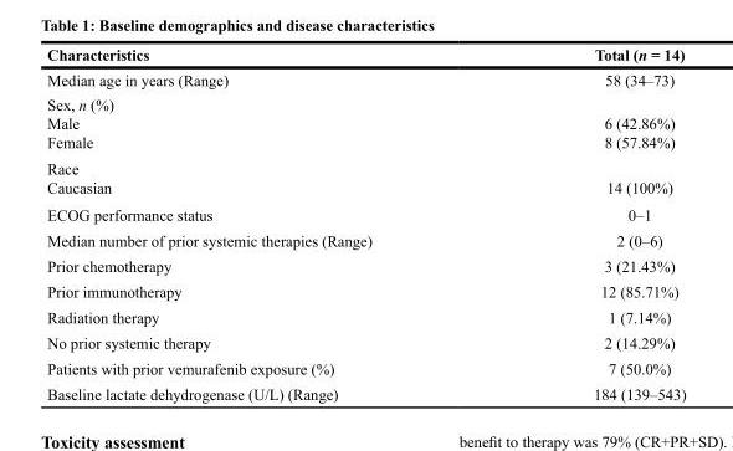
<table><thead><tr><td>Characteristics</td><td>Total (n = 14)</td></tr></thead><tbody><tr><td>Median age in years (Range)</td><td>58 (34–73)</td></tr><tr><td>Sex, n (%) Male Female</td><td>6 (42.86%) 8 (57.84%)</td></tr><tr><td>Race Caucasian</td><td>14 (100%)</td></tr><tr><td>ECOG performance status</td><td>0–1</td></tr><tr><td>Median number of prior systemic therapies (Range)</td><td>2 (0–6)</td></tr><tr><td>Prior chemotherapy</td><td>3 (21.43%)</td></tr><tr><td>Prior immunotherapy</td><td>12 (85.71%)</td></tr><tr><td>Radiation therapy</td><td>1 (7.14%)</td></tr><tr><td>No prior systemic therapy</td><td>2 (14.29%)</td></tr><tr><td>Patients with prior vemurafenib exposure (%)</td><td>7 (50.0%)</td></tr><tr><td>Baseline lactate dehydrogenase (U/L) (Range)</td><td>184 (139–543)</td></tr></tbody></table>